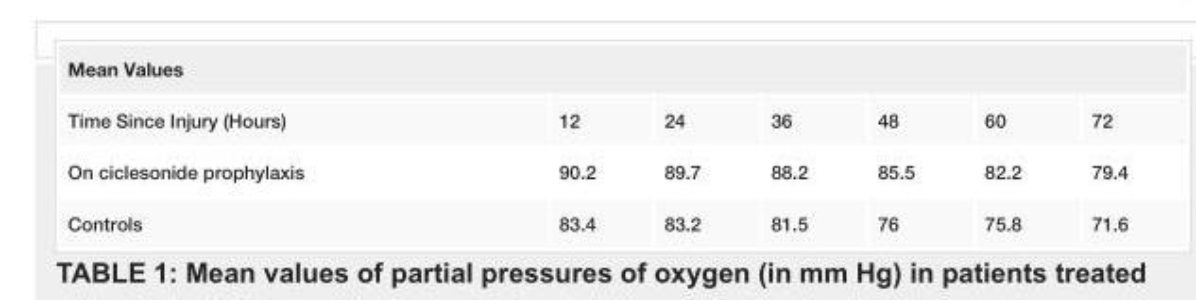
<table><tbody><tr><td colspan="7">Mean Values</td></tr><tr><td>Time Since Injury (Hours)</td><td>12</td><td>24</td><td>36</td><td>48</td><td>60</td><td>72</td></tr><tr><td>On ciclesonide prophylaxis</td><td>90.2</td><td>89.7</td><td>88.2</td><td>85.5</td><td>82.2</td><td>79.4</td></tr><tr><td>Controls</td><td>83.4</td><td>83.2</td><td>81.5</td><td>76</td><td>75.8</td><td>71.6</td></tr></tbody></table>